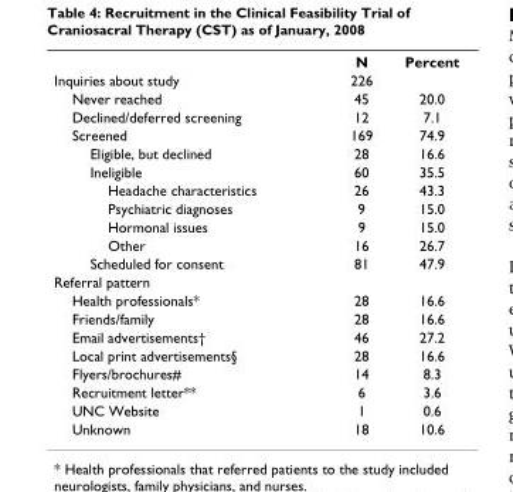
<table><thead><tr><td></td><td>N</td><td>Percent</td></tr></thead><tbody><tr><td>Inquiries about study</td><td>226</td><td></td></tr><tr><td>Never reached</td><td>45</td><td>20.0</td></tr><tr><td>Declined/deferred screening</td><td>12</td><td>7.1</td></tr><tr><td>Screened</td><td>169</td><td>74.9</td></tr><tr><td>Eligible, but declined</td><td>28</td><td>16.6</td></tr><tr><td>Ineligible</td><td>60</td><td>35.5</td></tr><tr><td>Headache characteristics</td><td>26</td><td>43.3</td></tr><tr><td>Psychiatric diagnoses</td><td>9</td><td>15.0</td></tr><tr><td>Hormonal issues</td><td>9</td><td>15.0</td></tr><tr><td>Other</td><td>16</td><td>26.7</td></tr><tr><td>Scheduled for consent</td><td>81</td><td>47.9</td></tr><tr><td colspan="3">Referral pattern</td></tr><tr><td>Health professionals*</td><td>28</td><td>16.6</td></tr><tr><td>Friends/family</td><td>28</td><td>16.6</td></tr><tr><td>Email advertisements†</td><td>46</td><td>27.2</td></tr><tr><td>Local print advertisements§</td><td>28</td><td>16.6</td></tr><tr><td>Flyers/brochures#</td><td>14</td><td>8.3</td></tr><tr><td>Recruitment letter**</td><td>6</td><td>3.6</td></tr><tr><td>UNC Website</td><td>1</td><td>0.6</td></tr><tr><td>Unknown</td><td>18</td><td>10.6</td></tr></tbody></table>